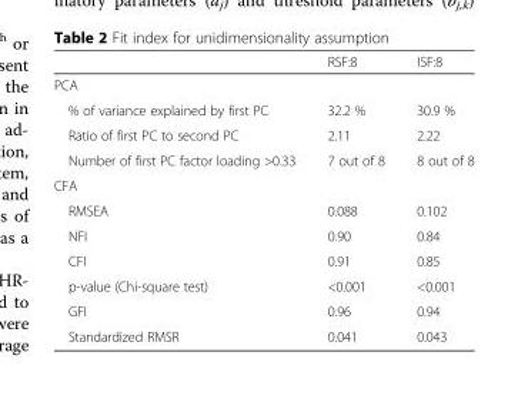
<table><thead><tr><td></td><td>RSF:8</td><td>ISF:8</td></tr></thead><tbody><tr><td colspan="3">PCA</td></tr><tr><td>% of variance explained by first PC</td><td>32.2 %</td><td>30.9 %</td></tr><tr><td>Ratio of first PC to second PC</td><td>2.11</td><td>2.22</td></tr><tr><td>Number of first PC factor loading &gt;0.33</td><td>7 out of 8</td><td>8 out of 8</td></tr><tr><td colspan="3">CFA</td></tr><tr><td>RMSEA</td><td>0.088</td><td>0.102</td></tr><tr><td>NFI</td><td>0.90</td><td>0.84</td></tr><tr><td>CFI</td><td>0.91</td><td>0.85</td></tr><tr><td>p-value (Chi-square test)</td><td>&lt;0.001</td><td>&lt;0.001</td></tr><tr><td>GFI</td><td>0.96</td><td>0.94</td></tr><tr><td>Standardized RMSR</td><td>0.041</td><td>0.043</td></tr></tbody></table>